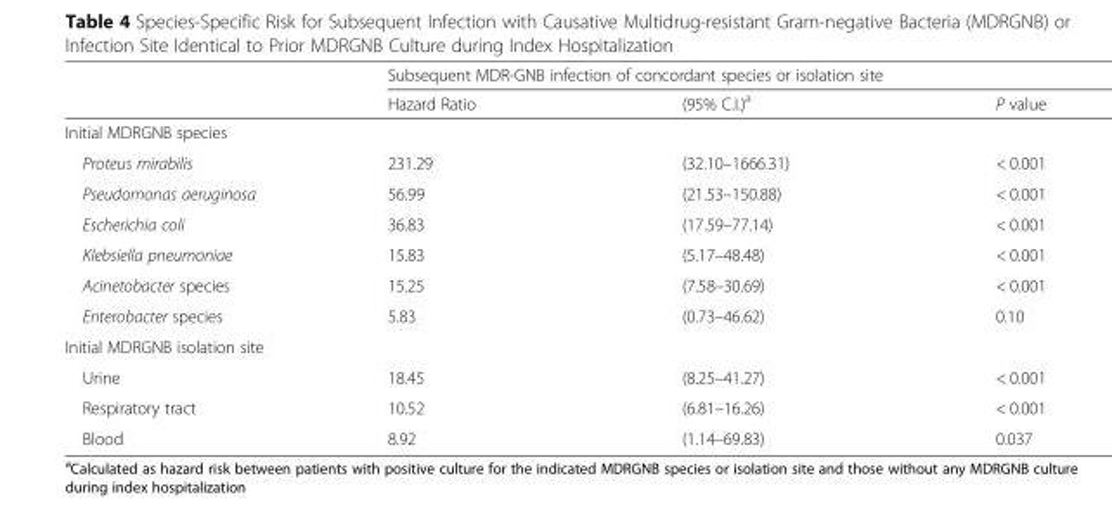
<table><thead><tr><td rowspan="2"></td><td colspan="3">Subsequent MDR-GNB infection of concordant species or isolation site</td></tr><tr><td>Hazard Ratio</td><td>(95% C.I.)<sup>a</sup></td><td>P value</td></tr></thead><tbody><tr><td colspan="4">Initial MDRGNB species</td></tr><tr><td>Proteus mirabilis</td><td>231.29</td><td>(32.10–1666.31)</td><td>&lt; 0.001</td></tr><tr><td>Pseudomonas aeruginosa</td><td>56.99</td><td>(21.53–150.88)</td><td>&lt; 0.001</td></tr><tr><td>Escherichia coli</td><td>36.83</td><td>(17.59–77.14)</td><td>&lt; 0.001</td></tr><tr><td>Klebsiella pneumoniae</td><td>15.83</td><td>(5.17–48.48)</td><td>&lt; 0.001</td></tr><tr><td>Acinetobacter species</td><td>15.25</td><td>(7.58–30.69)</td><td>&lt; 0.001</td></tr><tr><td>Enterobacter species</td><td>5.83</td><td>(0.73–46.62)</td><td>0.10</td></tr><tr><td colspan="4">Initial MDRGNB isolation site</td></tr><tr><td>Urine</td><td>18.45</td><td>(8.25–41.27)</td><td>&lt; 0.001</td></tr><tr><td>Respiratory tract</td><td>10.52</td><td>(6.81–16.26)</td><td>&lt; 0.001</td></tr><tr><td>Blood</td><td>8.92</td><td>(1.14–69.83)</td><td>0.037</td></tr></tbody></table>